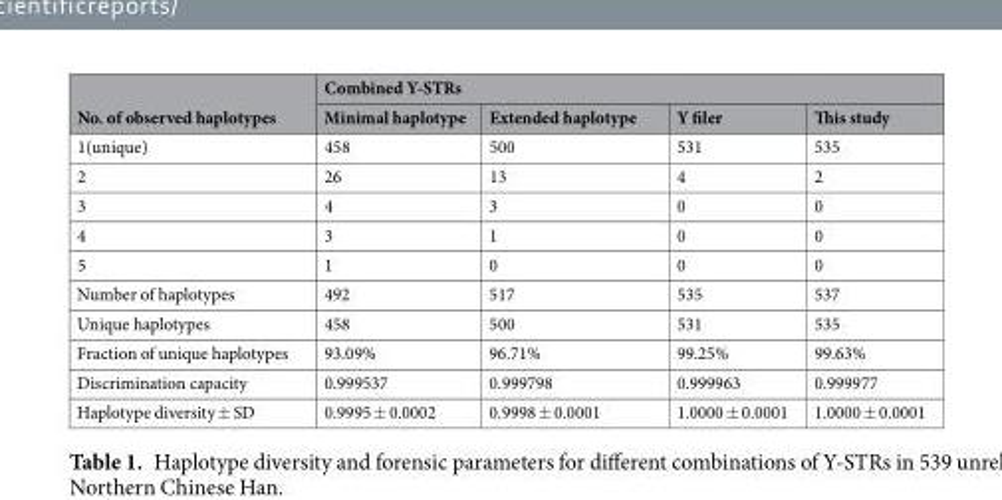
<table><thead><tr><td rowspan="2">No. of observed haplotypes</td><td colspan="4">Combined Y-STRs</td></tr><tr><td>Minimal haplotype</td><td>Extended haplotype</td><td>Y filer</td><td>This study</td></tr></thead><tbody><tr><td>1(unique)</td><td>458</td><td>500</td><td>531</td><td>535</td></tr><tr><td>2</td><td>26</td><td>13</td><td>4</td><td>2</td></tr><tr><td>3</td><td>4</td><td>3</td><td>0</td><td>0</td></tr><tr><td>4</td><td>3</td><td>1</td><td>0</td><td>0</td></tr><tr><td>5</td><td>1</td><td>0</td><td>0</td><td>0</td></tr><tr><td>Number of haplotypes</td><td>492</td><td>517</td><td>535</td><td>537</td></tr><tr><td>Unique haplotypes</td><td>458</td><td>500</td><td>531</td><td>535</td></tr><tr><td>Fraction of unique haplotypes</td><td>93.09%</td><td>96.71%</td><td>99.25%</td><td>99.63%</td></tr><tr><td>Discrimination capacity</td><td>0.999537</td><td>0.999798</td><td>0.999963</td><td>0.999977</td></tr><tr><td>Haplotype diversity ± SD</td><td>0.9995 ± 0.0002</td><td>0.9998 ± 0.0001</td><td>1.0000 ± 0.0001</td><td>1.0000 ± 0.0001</td></tr></tbody></table>